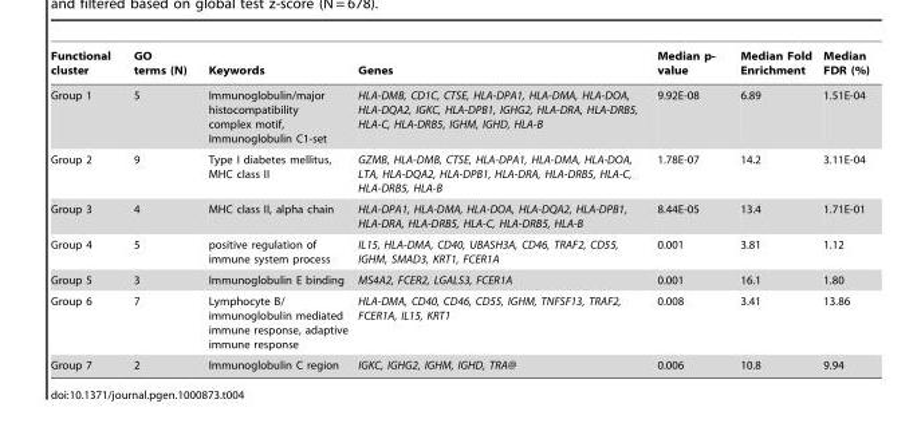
<table><thead><tr><td>Functional cluster</td><td>GO terms (N)</td><td>Keywords</td><td>Genes</td><td>Median p- value</td><td>Median Fold Enrichment</td><td>Median FDR (%)</td></tr></thead><tbody><tr><td>Group 1</td><td>5</td><td>Immunoglobulin/major histocompatibility complex motif, Immunoglobulin C1-set</td><td>HLA-DMB, CD1C, CTSE, HLA-DPA1, HLA-DMA, HLA-DOA, HLA-DQA2, IGKC, HLA-DPB1, IGHG2, HLA-DRA, HLA-DRB5, HLA-C, HLA-DRB5, IGHM, IGHD, HLA-B</td><td>9.92E-08</td><td>6.89</td><td>1.51E-04</td></tr><tr><td>Group 2</td><td>9</td><td>Type I diabetes mellitus, MHC class II</td><td>GZMB, HLA-DMB, CTSE, HLA-DPA1, HLA-DMA, HLA-DOA, LTA, HLA-DQA2, HLA-DPB1, HLA-DRA, HLA-DRB5, HLA-C, HLA-DRB5, HLA-B</td><td>1.78E-07</td><td>14.2</td><td>3.11E-04</td></tr><tr><td>Group 3</td><td>4</td><td>MHC class II, alpha chain</td><td>HLA-DPA1, HLA-DMA, HLA-DOA, HLA-DQA2, HLA-DPB1, HLA-DRA, HLA-DRB5, HLA-C, HLA-DRB5, HLA-B</td><td>8.44E-05</td><td>13.4</td><td>1.71E-01</td></tr><tr><td>Group 4</td><td>5</td><td>positive regulation of immune system process</td><td>IL15, HLA-DMA, CD40, UBASH3A, CD46, TRAF2, CD55, IGHM, SMAD3, KRT1, FCER1A</td><td>0.001</td><td>3.81</td><td>1.12</td></tr><tr><td>Group 5</td><td>3</td><td>Immunoglobulin E binding</td><td>MS4A2, FCER2, LGALS3, FCER1A</td><td>0.001</td><td>16.1</td><td>1.80</td></tr><tr><td>Group 6</td><td>7</td><td>Lymphocyte B/ immunoglobulin mediated immune response, adaptive immune response</td><td>HLA-DMA, CD40, CD46, CD55, IGHM, TNFSF13, TRAF2, FCER1A, IL15, KRT1</td><td>0.008</td><td>3.41</td><td>13.86</td></tr><tr><td>Group 7</td><td>2</td><td>Immunoglobulin C region</td><td>IGKC, IGHG2, IGHM, IGHD, TRA@</td><td>0.006</td><td>10.8</td><td>9.94</td></tr></tbody></table>